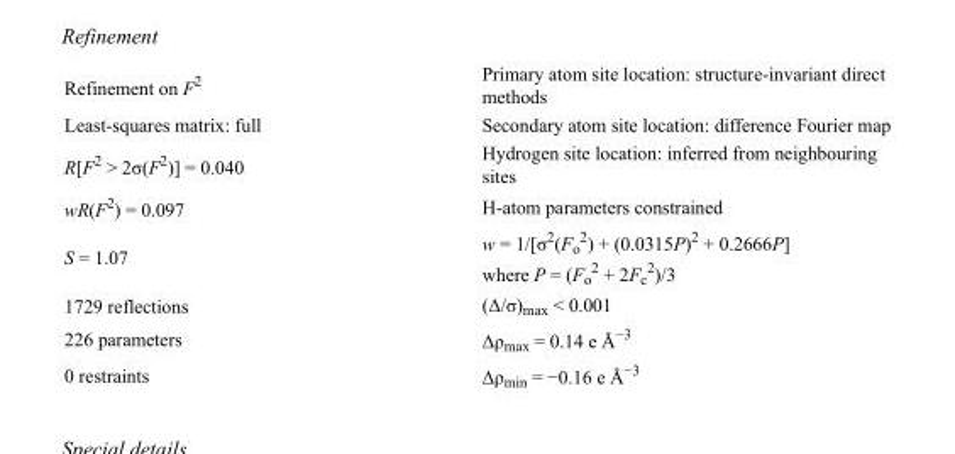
<table><tbody><tr><td>Refinement on F<sup>2</sup></td><td>Primary atom site location: structure-invariant direct methods</td></tr><tr><td>Least-squares matrix: full</td><td>Secondary atom site location: difference Fourier map</td></tr><tr><td>R[F<sup>2</sup> &gt; 2σ(F<sup>2</sup>)] = 0.040</td><td>Hydrogen site location: inferred from neighbouring sites</td></tr><tr><td>wR(F<sup>2</sup>) = 0.097</td><td>H-atom parameters constrained</td></tr><tr><td>S = 1.07</td><td>w = 1/[σ<sup>2</sup>(F<sub>o</sub> <sup>2</sup>) + (0.0315P)<sup>2</sup> + 0.2666P] where P = (F<sub>o</sub> <sup>2</sup> + 2F<sub>c</sub> <sup>2</sup>)/3</td></tr><tr><td>1729 reflections</td><td>(Δ/σ)<sub>max</sub> &lt; 0.001</td></tr><tr><td>226 parameters</td><td>Δρ<sub>max</sub> = 0.14 e Å<sup>−3</sup></td></tr><tr><td>0 restraints</td><td>Δρ<sub>min</sub> = −0.16 e Å<sup>−3</sup></td></tr></tbody></table>